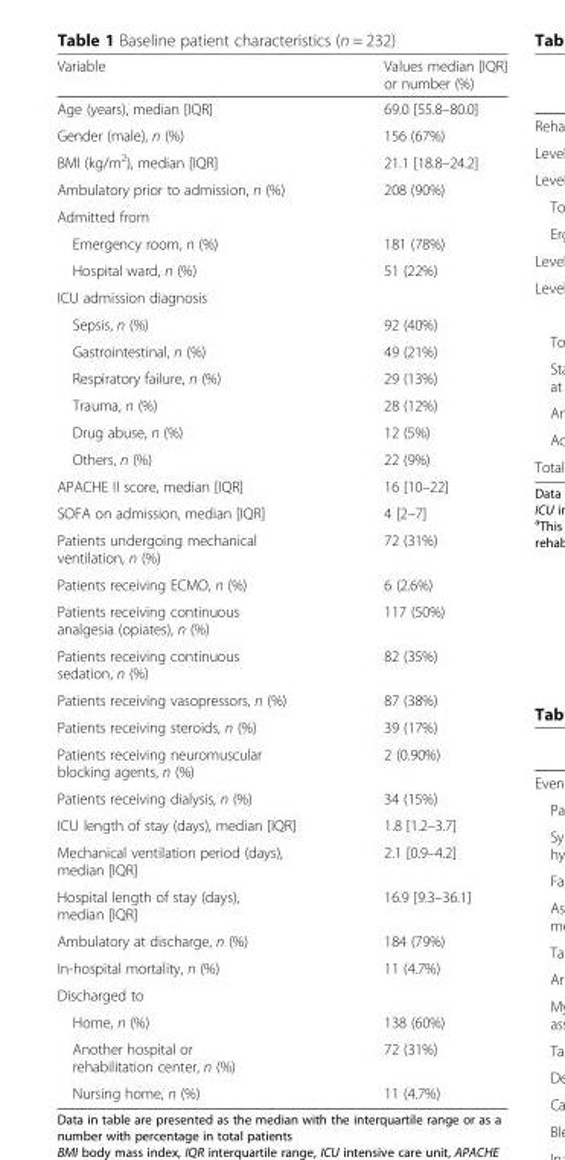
<table><thead><tr><td>Variable</td><td>Values median [IQR] or number (%)</td></tr></thead><tbody><tr><td>Age (years), median [IQR]</td><td>69.0 [55.8–80.0]</td></tr><tr><td>Gender (male), n (%)</td><td>156 (67%)</td></tr><tr><td>BMI (kg/m<sup>2</sup>), median [IQR]</td><td>21.1 [18.8–24.2]</td></tr><tr><td>Ambulatory prior to admission, n (%)</td><td>208 (90%)</td></tr><tr><td colspan="2">Admitted from</td></tr><tr><td>Emergency room, n (%)</td><td>181 (78%)</td></tr><tr><td>Hospital ward, n (%)</td><td>51 (22%)</td></tr><tr><td colspan="2">ICU admission diagnosis</td></tr><tr><td>Sepsis, n (%)</td><td>92 (40%)</td></tr><tr><td>Gastrointestinal, n (%)</td><td>49 (21%)</td></tr><tr><td>Respiratory failure, n (%)</td><td>29 (13%)</td></tr><tr><td>Trauma, n (%)</td><td>28 (12%)</td></tr><tr><td>Drug abuse, n (%)</td><td>12 (5%)</td></tr><tr><td>Others, n (%)</td><td>22 (9%)</td></tr><tr><td>APACHE II score, median [IQR]</td><td>16 [10–22]</td></tr><tr><td>SOFA on admission, median [IQR]</td><td>4 [2–7]</td></tr><tr><td>Patients undergoing mechanical ventilation, n (%)</td><td>72 (31%)</td></tr><tr><td>Patients receiving ECMO, n (%)</td><td>6 (2.6%)</td></tr><tr><td>Patients receiving continuous analgesia (opiates), n (%)</td><td>117 (50%)</td></tr><tr><td>Patients receiving continuous sedation, n (%)</td><td>82 (35%)</td></tr><tr><td>Patients receiving vasopressors, n (%)</td><td>87 (38%)</td></tr><tr><td>Patients receiving steroids, n (%)</td><td>39 (17%)</td></tr><tr><td>Patients receiving neuromuscular blocking agents, n (%)</td><td>2 (0.90%)</td></tr><tr><td>Patients receiving dialysis, n (%)</td><td>34 (15%)</td></tr><tr><td>ICU length of stay (days), median [IQR]</td><td>1.8 [1.2–3.7]</td></tr><tr><td>Mechanical ventilation period (days), median [IQR]</td><td>2.1 [0.9–4.2]</td></tr><tr><td>Hospital length of stay (days), median [IQR]</td><td>16.9 [9.3–36.1]</td></tr><tr><td>Ambulatory at discharge, n (%)</td><td>184 (79%)</td></tr><tr><td>In-hospital mortality, n (%)</td><td>11 (4.7%)</td></tr><tr><td colspan="2">Discharged to</td></tr><tr><td>Home, n (%)</td><td>138 (60%)</td></tr><tr><td>Another hospital or rehabilitation center, n (%)</td><td>72 (31%)</td></tr><tr><td>Nursing home, n (%)</td><td>11 (4.7%)</td></tr></tbody></table>